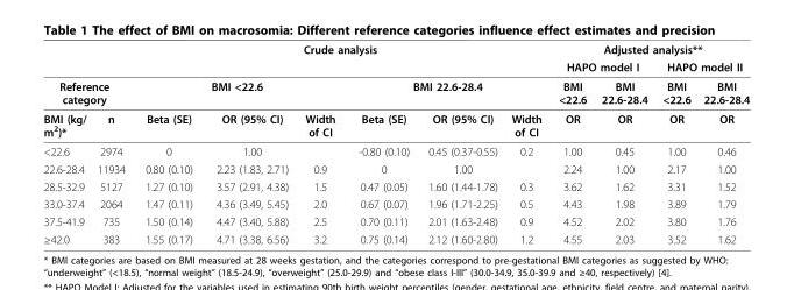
<table><thead><tr><td rowspan="2"></td><td rowspan="2"></td><td colspan="6">Crude analysis</td><td colspan="4">Adjusted analysis**</td></tr><tr><td></td><td></td><td></td><td></td><td></td><td></td><td colspan="2">HAPO model I</td><td colspan="2">HAPO model II</td></tr><tr><td colspan="2">Reference category</td><td colspan="3">BMI &lt;22.6</td><td colspan="3">BMI 22.6-28.4</td><td>BMI &lt;22.6</td><td>BMI 22.6-28.4</td><td>BMI &lt;22.6</td><td>BMI 22.6-28.4</td></tr></thead><tbody><tr><td>BMI (kg/ m<sup>2</sup>)*</td><td>n</td><td>Beta (SE)</td><td>OR (95% CI)</td><td>Width of CI</td><td>Beta (SE)</td><td>OR (95% CI)</td><td>Width of CI</td><td>OR</td><td>OR</td><td>OR</td><td>OR</td></tr><tr><td>&lt;22.6</td><td>2974</td><td>0</td><td>1.00</td><td></td><td>-0.80 (0.10)</td><td>0.45 (0.37-0.55)</td><td>0.2</td><td>1.00</td><td>0.45</td><td>1.00</td><td>0.46</td></tr><tr><td>22.6-28.4</td><td>11934</td><td>0.80 (0.10)</td><td>2.23 (1.83, 2.71)</td><td>0.9</td><td>0</td><td>1.00</td><td></td><td>2.24</td><td>1.00</td><td>2.17</td><td>1.00</td></tr><tr><td>28.5-32.9</td><td>5127</td><td>1.27 (0.10)</td><td>3.57 (2.91, 4.38)</td><td>1.5</td><td>0.47 (0.05)</td><td>1.60 (1.44-1.78)</td><td>0.3</td><td>3.62</td><td>1.62</td><td>3.31</td><td>1.52</td></tr><tr><td>33.0-37.4</td><td>2064</td><td>1.47 (0.11)</td><td>4.36 (3.49, 5.45)</td><td>2.0</td><td>0.67 (0.07)</td><td>1.96 (1.71-2.25)</td><td>0.5</td><td>4.43</td><td>1.98</td><td>3.89</td><td>1.79</td></tr><tr><td>37.5-41.9</td><td>735</td><td>1.50 (0.14)</td><td>4.47 (3.40, 5.88)</td><td>2.5</td><td>0.70 (0.11)</td><td>2.01 (1.63-2.48)</td><td>0.9</td><td>4.52</td><td>2.02</td><td>3.80</td><td>1.76</td></tr><tr><td>≥42.0</td><td>383</td><td>1.55 (0.17)</td><td>4.71 (3.38, 6.56)</td><td>3.2</td><td>0.75 (0.14)</td><td>2.12 (1.60-2.80)</td><td>1.2</td><td>4.55</td><td>2.03</td><td>3.52</td><td>1.62</td></tr></tbody></table>